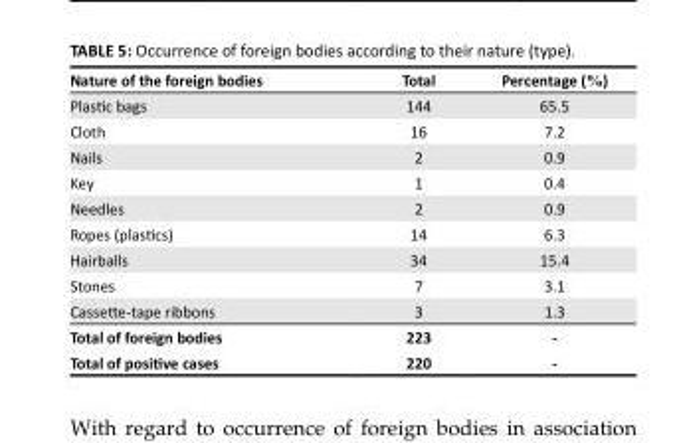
<table><thead><tr><td>Nature of the foreign bodies</td><td>Total</td><td>Percentage (%)</td></tr></thead><tbody><tr><td>Plastic bags</td><td>144</td><td>65.5</td></tr><tr><td>Cloth</td><td>16</td><td>7.2</td></tr><tr><td>Nails</td><td>2</td><td>0.9</td></tr><tr><td>Key</td><td>1</td><td>0.4</td></tr><tr><td>Needles</td><td>2</td><td>0.9</td></tr><tr><td>Ropes (plastics)</td><td>14</td><td>6.3</td></tr><tr><td>Hairballs</td><td>34</td><td>15.4</td></tr><tr><td>Stones</td><td>7</td><td>3.1</td></tr><tr><td>Cassette-tape ribbons</td><td>3</td><td>1.3</td></tr><tr><td>Total of foreign bodies</td><td>223</td><td>-</td></tr><tr><td>Total of positive cases</td><td>220</td><td>-</td></tr></tbody></table>